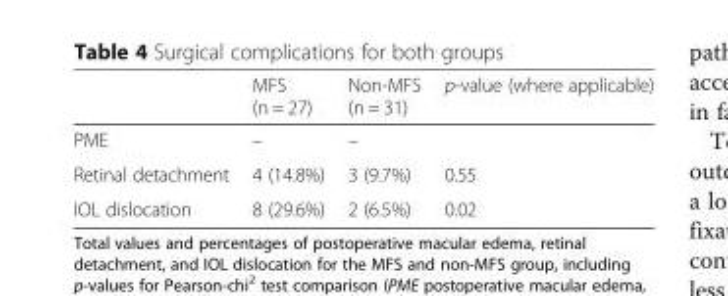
<table><thead><tr><td></td><td>MFS (n = 27)</td><td>Non-MFS (n = 31)</td><td>p-value (where applicable)</td></tr></thead><tbody><tr><td>PME</td><td>–</td><td>–</td><td></td></tr><tr><td>Retinal detachment</td><td>4 (14.8%)</td><td>3 (9.7%)</td><td>0.55</td></tr><tr><td>IOL dislocation</td><td>8 (29.6%)</td><td>2 (6.5%)</td><td>0.02</td></tr></tbody></table>